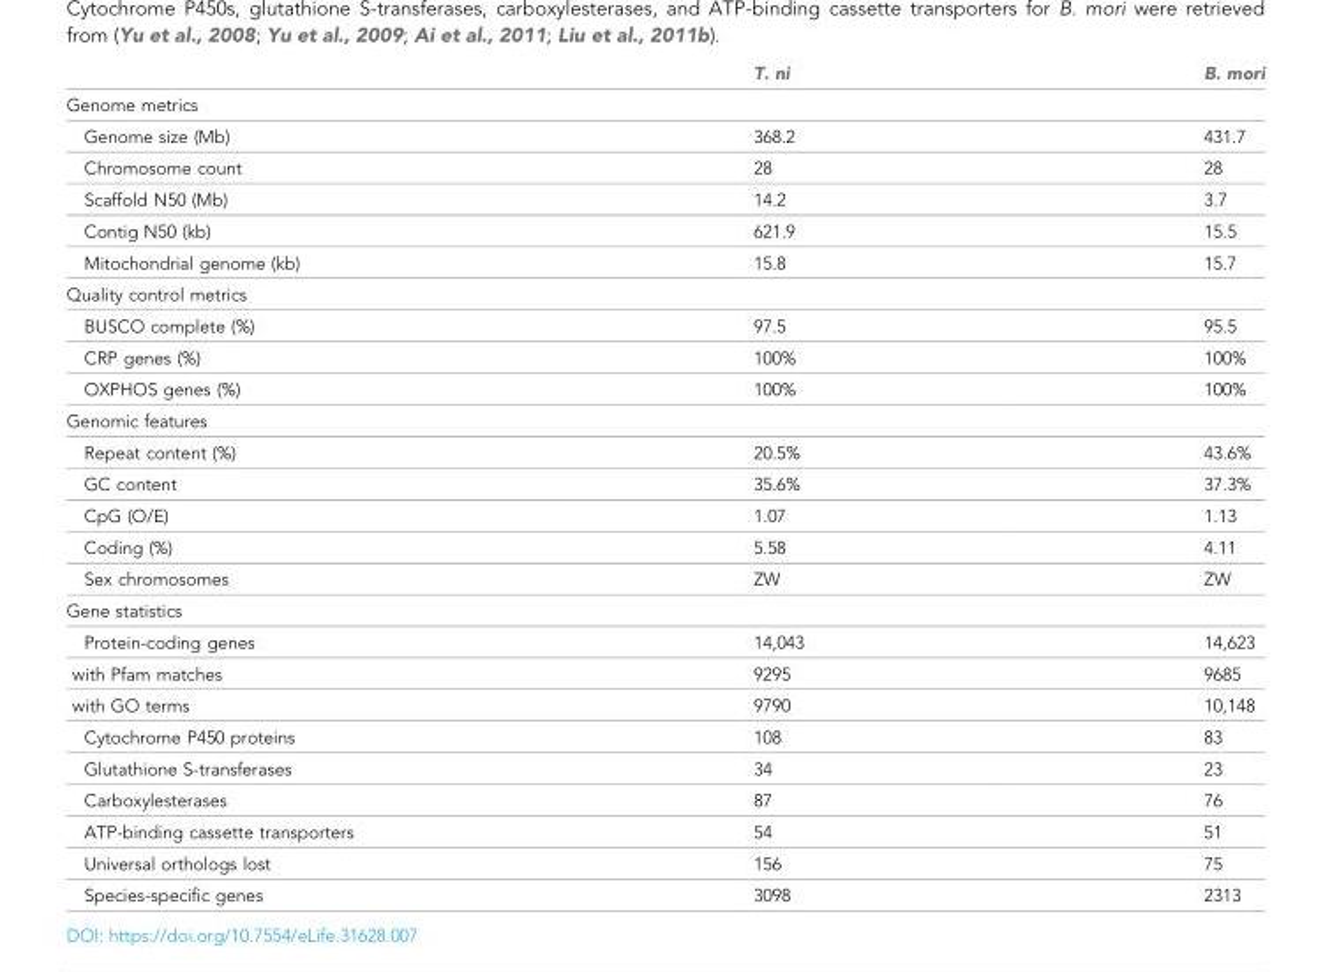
<table><thead><tr><td></td><td>T. ni</td><td>B. mori</td></tr></thead><tbody><tr><td colspan="3">Genome metrics</td></tr><tr><td>Genome size (Mb)</td><td>368.2</td><td>431.7</td></tr><tr><td>Chromosome count</td><td>28</td><td>28</td></tr><tr><td>Scaffold N50 (Mb)</td><td>14.2</td><td>3.7</td></tr><tr><td>Contig N50 (kb)</td><td>621.9</td><td>15.5</td></tr><tr><td>Mitochondrial genome (kb)</td><td>15.8</td><td>15.7</td></tr><tr><td colspan="3">Quality control metrics</td></tr><tr><td>BUSCO complete (%)</td><td>97.5</td><td>95.5</td></tr><tr><td>CRP genes (%)</td><td>100%</td><td>100%</td></tr><tr><td>OXPHOS genes (%)</td><td>100%</td><td>100%</td></tr><tr><td colspan="3">Genomic features</td></tr><tr><td>Repeat content (%)</td><td>20.5%</td><td>43.6%</td></tr><tr><td>GC content</td><td>35.6%</td><td>37.3%</td></tr><tr><td>CpG (O/E)</td><td>1.07</td><td>1.13</td></tr><tr><td>Coding (%)</td><td>5.58</td><td>4.11</td></tr><tr><td>Sex chromosomes</td><td>ZW</td><td>ZW</td></tr><tr><td colspan="3">Gene statistics</td></tr><tr><td>Protein-coding genes</td><td>14,043</td><td>14,623</td></tr><tr><td>with Pfam matches</td><td>9295</td><td>9685</td></tr><tr><td>with GO terms</td><td>9790</td><td>10,148</td></tr><tr><td>Cytochrome P450 proteins</td><td>108</td><td>83</td></tr><tr><td>Glutathione S-transferases</td><td>34</td><td>23</td></tr><tr><td>Carboxylesterases</td><td>87</td><td>76</td></tr><tr><td>ATP-binding cassette transporters</td><td>54</td><td>51</td></tr><tr><td>Universal orthologs lost</td><td>156</td><td>75</td></tr><tr><td>Species-specific genes</td><td>3098</td><td>2313</td></tr></tbody></table>